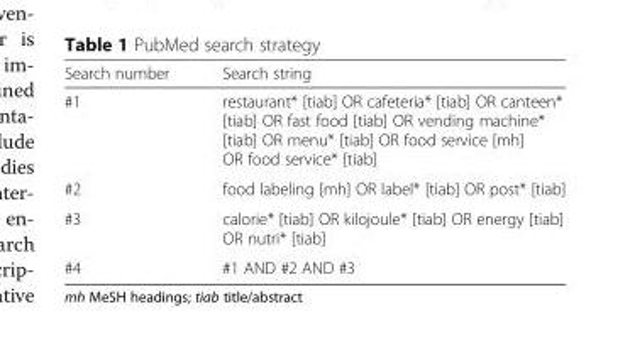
<table><thead><tr><td>Search number</td><td>Search string</td></tr></thead><tbody><tr><td>#1</td><td>restaurant* [tiab] OR cafeteria* [tiab] OR canteen* [tiab] OR fast food [tiab] OR vending machine* [tiab] OR menu* [tiab] OR food service [mh] OR food service* [tiab]</td></tr><tr><td>#2</td><td>food labeling [mh] OR label* [tiab] OR post* [tiab]</td></tr><tr><td>#3</td><td>calorie* [tiab] OR kilojoule* [tiab] OR energy [tiab] OR nutri* [tiab]</td></tr><tr><td>#4</td><td>#1 AND #2 AND #3</td></tr></tbody></table>